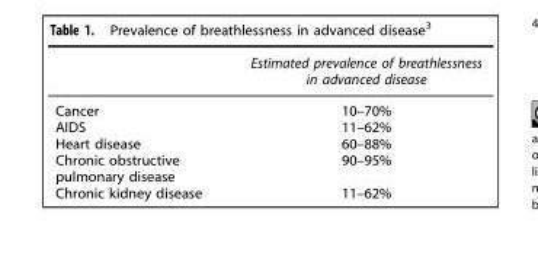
<table><thead><tr><td></td><td>Estimated prevalence of breathlessness in advanced disease</td></tr></thead><tbody><tr><td>Cancer</td><td>10–70%</td></tr><tr><td>AIDS</td><td>11–62%</td></tr><tr><td>Heart disease</td><td>60–88%</td></tr><tr><td>Chronic obstructive pulmonary disease</td><td>90–95%</td></tr><tr><td>Chronic kidney disease</td><td>11–62%</td></tr></tbody></table>